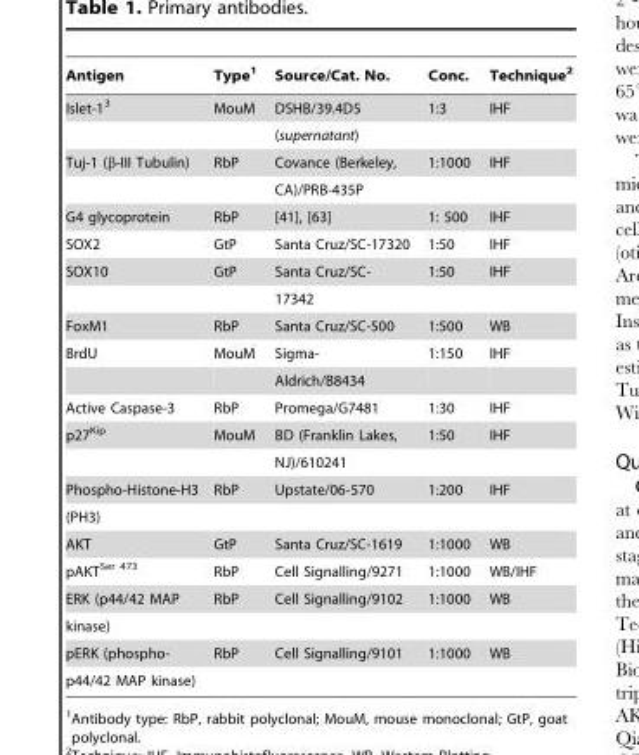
<table><thead><tr><td>Antigen</td><td>Type<sup>1</sup></td><td>Source/Cat. No.</td><td>Conc.</td><td>Technique<sup>2</sup></td></tr></thead><tbody><tr><td rowspan="2">Islet-1<sup>3</sup></td><td>MouM</td><td>DSHB/39.4D5</td><td>1:3</td><td>IHF</td></tr><tr><td></td><td>(supernatant)</td><td></td><td></td></tr><tr><td rowspan="2">Tuj-1 (β-III Tubulin)</td><td>RbP</td><td>Covance (Berkeley,</td><td>1:1000</td><td>IHF</td></tr><tr><td></td><td>CA)/PRB-435P</td><td></td><td></td></tr><tr><td>G4 glycoprotein</td><td>RbP</td><td>[41], [63]</td><td>1: 500</td><td>IHF</td></tr><tr><td>SOX2</td><td>GtP</td><td>Santa Cruz/SC-17320</td><td>1:50</td><td>IHF</td></tr><tr><td rowspan="2">SOX10</td><td>GtP</td><td>Santa Cruz/SC-</td><td>1:50</td><td>IHF</td></tr><tr><td></td><td>17342</td><td></td><td></td></tr><tr><td>FoxM1</td><td>RbP</td><td>Santa Cruz/SC-500</td><td>1:500</td><td>WB</td></tr><tr><td rowspan="2">BrdU</td><td>MouM</td><td>Sigma-</td><td>1:150</td><td>IHF</td></tr><tr><td></td><td>Aldrich/B8434</td><td></td><td></td></tr><tr><td>Active Caspase-3</td><td>RbP</td><td>Promega/G7481</td><td>1:30</td><td>IHF</td></tr><tr><td rowspan="2">p27<sup>Kip</sup></td><td>MouM</td><td>BD (Franklin Lakes,</td><td>1:50</td><td>IHF</td></tr><tr><td></td><td>NJ)/610241</td><td></td><td></td></tr><tr><td>Phospho-Histone-H3</td><td>RbP</td><td>Upstate/06-570</td><td>1:200</td><td>IHF</td></tr><tr><td colspan="5">(PH3)</td></tr><tr><td>AKT</td><td>GtP</td><td>Santa Cruz/SC-1619</td><td>1:1000</td><td>WB</td></tr><tr><td>pAKT<sup>Ser 473</sup></td><td>RbP</td><td>Cell Signalling/9271</td><td>1:1000</td><td>WB/IHF</td></tr><tr><td>ERK (p44/42 MAP</td><td>RbP</td><td>Cell Signalling/9102</td><td>1:1000</td><td>WB</td></tr><tr><td colspan="5">kinase)</td></tr><tr><td>pERK (phospho-</td><td>RbP</td><td>Cell Signalling/9101</td><td>1:1000</td><td>WB</td></tr><tr><td>p44/42 MAP kinase)</td><td></td><td></td><td></td><td></td></tr></tbody></table>